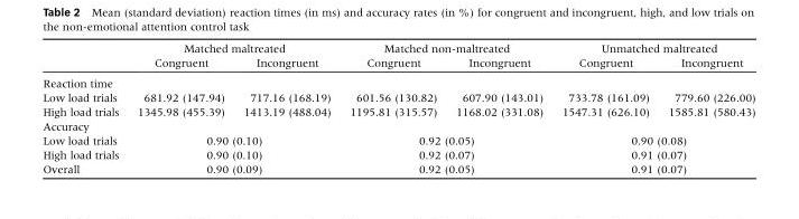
<table><thead><tr><td rowspan="2"></td><td colspan="2">Matched maltreated</td><td colspan="2">Matched non-maltreated</td><td colspan="2">Unmatched maltreated</td></tr><tr><td>Congruent</td><td>Incongruent</td><td>Congruent</td><td>Incongruent</td><td>Congruent</td><td>Incongruent</td></tr></thead><tbody><tr><td colspan="7">Reaction time</td></tr><tr><td>Low load trials</td><td>681.92 (147.94)</td><td>717.16 (168.19)</td><td>601.56 (130.82)</td><td>607.90 (143.01)</td><td>733.78 (161.09)</td><td>779.60 (226.00)</td></tr><tr><td>High load trials</td><td>1345.98 (455.39)</td><td>1413.19 (488.04)</td><td>1195.81 (315.57)</td><td>1168.02 (331.08)</td><td>1547.31 (626.10)</td><td>1585.81 (580.43)</td></tr><tr><td colspan="7">Accuracy</td></tr><tr><td>Low load trials</td><td colspan="2">0.90 (0.10)</td><td colspan="2">0.92 (0.05)</td><td colspan="2">0.90 (0.08)</td></tr><tr><td>High load trials</td><td colspan="2">0.90 (0.10)</td><td colspan="2">0.92 (0.07)</td><td colspan="2">0.91 (0.07)</td></tr><tr><td>Overall</td><td colspan="2">0.90 (0.09)</td><td colspan="2">0.92 (0.05)</td><td colspan="2">0.91 (0.07)</td></tr></tbody></table>